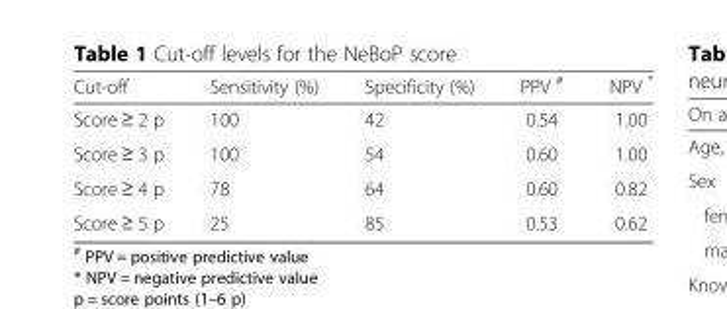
<table><thead><tr><td>Cut-off</td><td>Sensitivity (%)</td><td>Specificity (%)</td><td>PPV <sup>#</sup></td><td>NPV *</td></tr></thead><tbody><tr><td>Score ≥ 2 p</td><td>100</td><td>42</td><td>0.54</td><td>1.00</td></tr><tr><td>Score ≥ 3 p</td><td>100</td><td>54</td><td>0.60</td><td>1.00</td></tr><tr><td>Score ≥ 4 p</td><td>78</td><td>64</td><td>0.60</td><td>0.82</td></tr><tr><td>Score ≥ 5 p</td><td>25</td><td>85</td><td>0.53</td><td>0.62</td></tr></tbody></table>